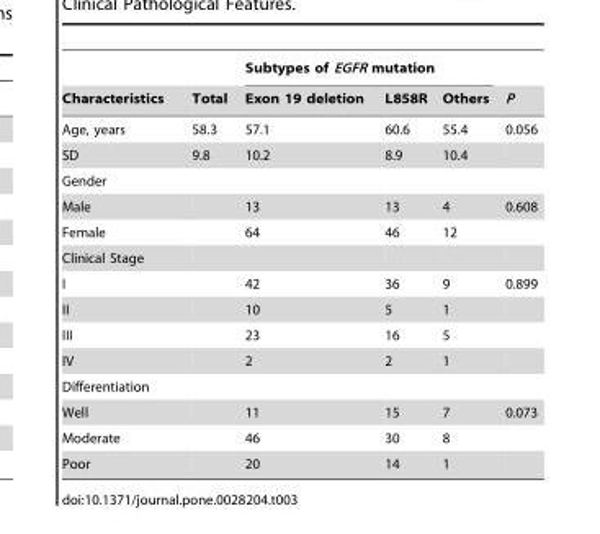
<table><thead><tr><td rowspan="2">Characteristics</td><td rowspan="2">Total</td><td colspan="3">Subtypes of EGFR mutation</td><td rowspan="2">P</td></tr><tr><td>Exon 19 deletion</td><td>L858R</td><td>Others</td></tr></thead><tbody><tr><td>Age, years</td><td>58.3</td><td>57.1</td><td>60.6</td><td>55.4</td><td>0.056</td></tr><tr><td>SD</td><td>9.8</td><td>10.2</td><td>8.9</td><td>10.4</td><td></td></tr><tr><td colspan="6">Gender</td></tr><tr><td>Male</td><td></td><td>13</td><td>13</td><td>4</td><td>0.608</td></tr><tr><td>Female</td><td></td><td>64</td><td>46</td><td>12</td><td></td></tr><tr><td colspan="6">Clinical Stage</td></tr><tr><td>I</td><td></td><td>42</td><td>36</td><td>9</td><td>0.899</td></tr><tr><td>II</td><td></td><td>10</td><td>5</td><td>1</td><td></td></tr><tr><td>III</td><td></td><td>23</td><td>16</td><td>5</td><td></td></tr><tr><td>IV</td><td></td><td>2</td><td>2</td><td>1</td><td></td></tr><tr><td colspan="6">Differentiation</td></tr><tr><td>Well</td><td></td><td>11</td><td>15</td><td>7</td><td>0.073</td></tr><tr><td>Moderate</td><td></td><td>46</td><td>30</td><td>8</td><td></td></tr><tr><td>Poor</td><td></td><td>20</td><td>14</td><td>1</td><td></td></tr></tbody></table>